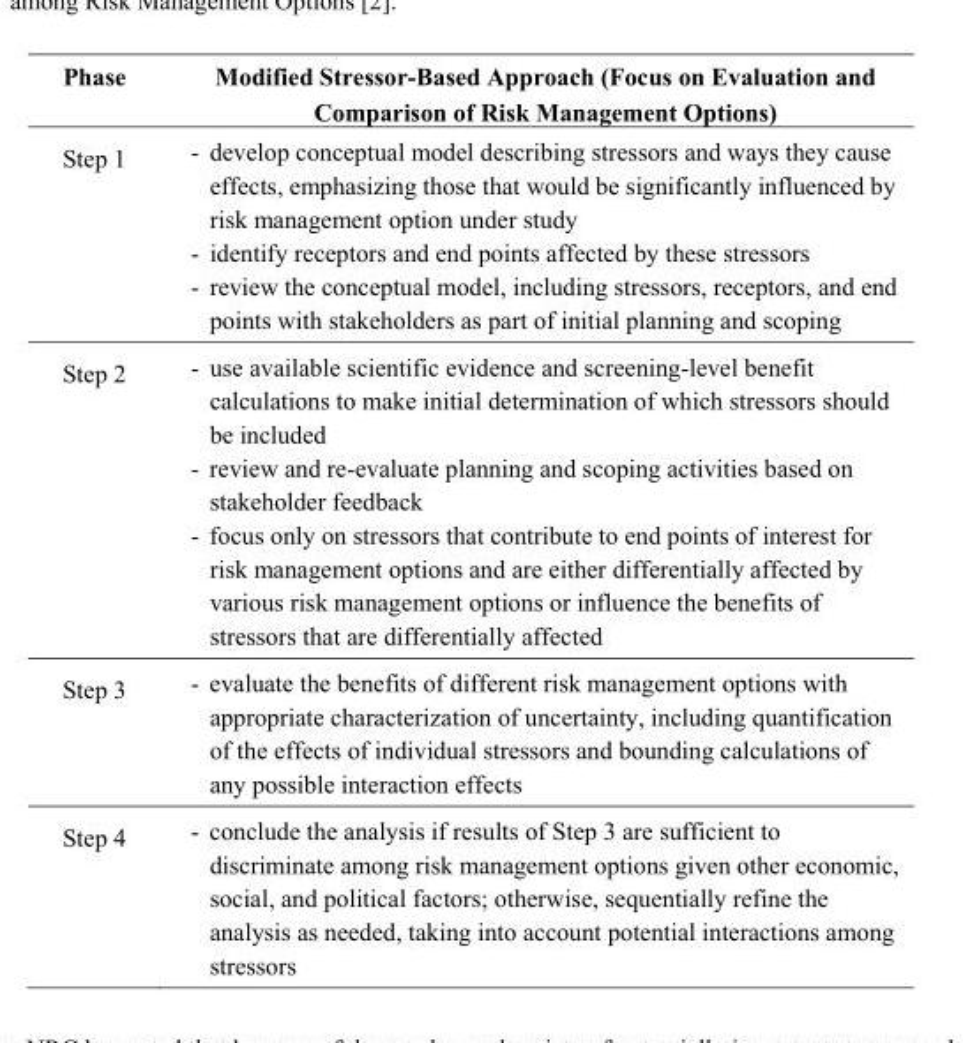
<table><thead><tr><td>Phase</td><td>Modified Stressor-Based Approach (Focus on Evaluation and Comparison of Risk Management Options)</td></tr></thead><tbody><tr><td>Step 1</td><td>- develop conceptual model describing stressors and ways they cause effects, emphasizing those that would be significantly influenced by risk management option under study - identify receptors and end points affected by these stressors - review the conceptual model, including stressors, receptors, and end points with stakeholders as part of initial planning and scoping</td></tr><tr><td>Step 2</td><td>- use available scientific evidence and screening-level benefit calculations to make initial determination of which stressors should be included - review and re-evaluate planning and scoping activities based on stakeholder feedback - focus only on stressors that contribute to end points of interest for risk management options and are either differentially affected by various risk management options or influence the benefits of stressors that are differentially affected</td></tr><tr><td>Step 3</td><td>- evaluate the benefits of different risk management options with appropriate characterization of uncertainty, including quantification of the effects of individual stressors and bounding calculations of any possible interaction effects</td></tr><tr><td>Step 4</td><td>- conclude the analysis if results of Step 3 are sufficient to discriminate among risk management options given other economic, social, and political factors; otherwise, sequentially refine the analysis as needed, taking into account potential interactions among stressors</td></tr></tbody></table>